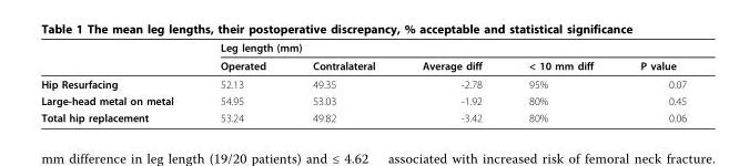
<table><thead><tr><td rowspan="2"></td><td colspan="2">Leg length (mm)</td><td rowspan="2">Average diff</td><td rowspan="2">&lt; 10 mm diff</td><td rowspan="2">P value</td></tr><tr><td>Operated</td><td>Contralateral</td></tr></thead><tbody><tr><td>Hip Resurfacing</td><td>52.13</td><td>49.35</td><td>-2.78</td><td>95%</td><td>0.07</td></tr><tr><td>Large-head metal on metal</td><td>54.95</td><td>53.03</td><td>-1.92</td><td>80%</td><td>0.45</td></tr><tr><td>Total hip replacement</td><td>53.24</td><td>49.82</td><td>-3.42</td><td>80%</td><td>0.06</td></tr></tbody></table>